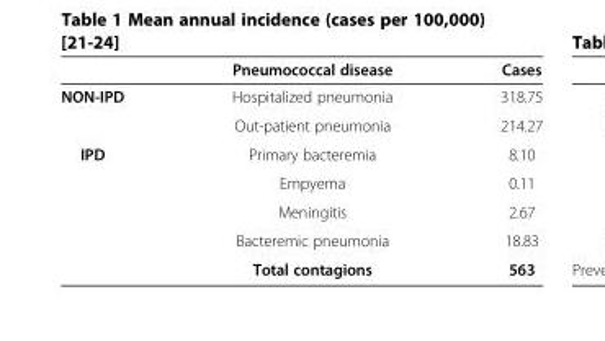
<table><thead><tr><td></td><td>Pneumococcal disease</td><td>Cases</td></tr></thead><tbody><tr><td rowspan="2">NON-IPD</td><td>Hospitalized pneumonia</td><td>318.75</td></tr><tr><td>Out-patient pneumonia</td><td>214.27</td></tr><tr><td rowspan="5">IPD</td><td>Primary bacteremia</td><td>8.10</td></tr><tr><td>Empyema</td><td>0.11</td></tr><tr><td>Meningitis</td><td>2.67</td></tr><tr><td>Bacteremic pneumonia</td><td>18.83</td></tr><tr><td>Total contagions</td><td>563</td></tr></tbody></table>